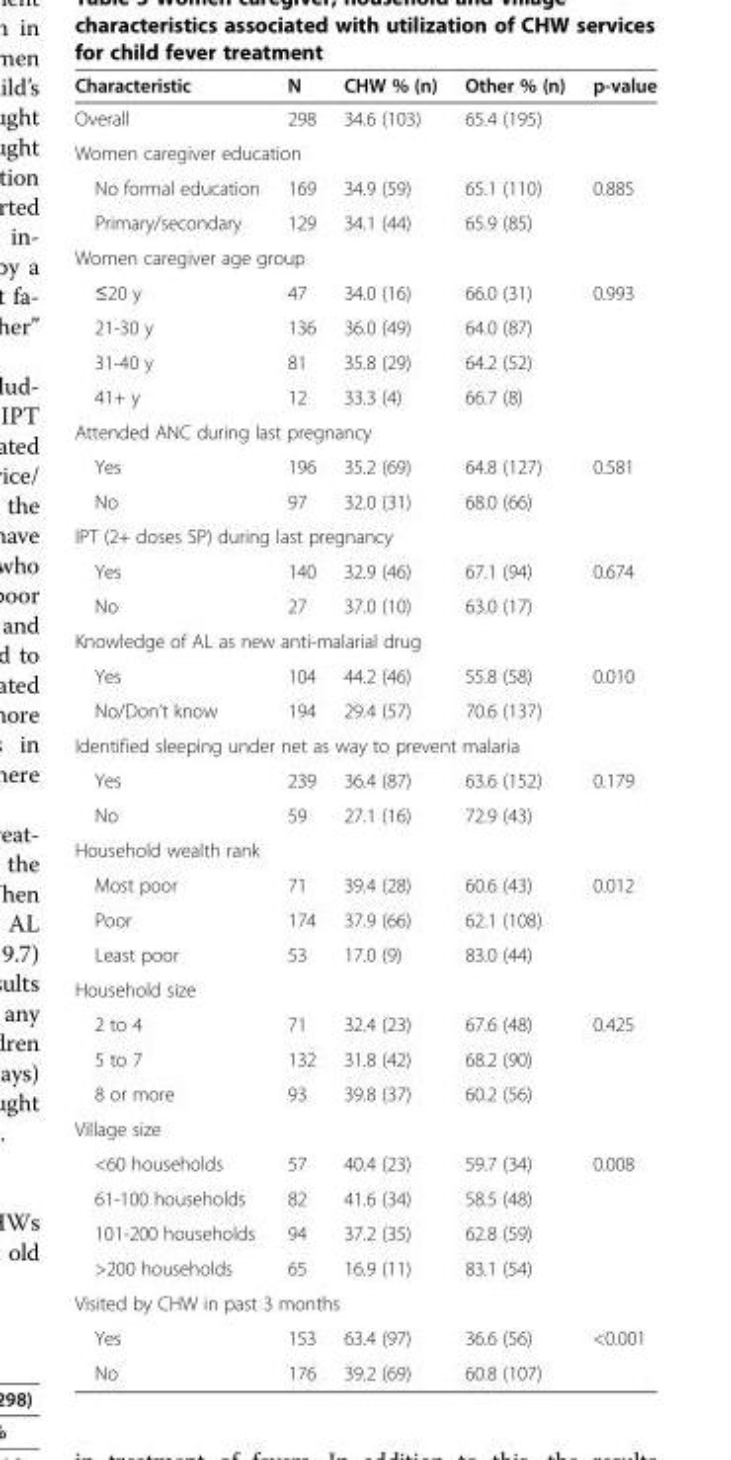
<table><thead><tr><td>Characteristic</td><td>N</td><td>CHW % (n)</td><td>Other % (n)</td><td>p-value</td></tr></thead><tbody><tr><td>Overall</td><td>298</td><td>34.6 (103)</td><td>65.4 (195)</td><td></td></tr><tr><td colspan="5">Women caregiver education</td></tr><tr><td>No formal education</td><td>169</td><td>34.9 (59)</td><td>65.1 (110)</td><td>0.885</td></tr><tr><td>Primary/secondary</td><td>129</td><td>34.1 (44)</td><td>65.9 (85)</td><td></td></tr><tr><td colspan="5">Women caregiver age group</td></tr><tr><td>≤20 y</td><td>47</td><td>34.0 (16)</td><td>66.0 (31)</td><td>0.993</td></tr><tr><td>21-30 y</td><td>136</td><td>36.0 (49)</td><td>64.0 (87)</td><td></td></tr><tr><td>31-40 y</td><td>81</td><td>35.8 (29)</td><td>64.2 (52)</td><td></td></tr><tr><td>41+ y</td><td>12</td><td>33.3 (4)</td><td>66.7 (8)</td><td></td></tr><tr><td colspan="5">Attended ANC during last pregnancy</td></tr><tr><td>Yes</td><td>196</td><td>35.2 (69)</td><td>64.8 (127)</td><td>0.581</td></tr><tr><td>No</td><td>97</td><td>32.0 (31)</td><td>68.0 (66)</td><td></td></tr><tr><td colspan="5">IPT (2+ doses SP) during last pregnancy</td></tr><tr><td>Yes</td><td>140</td><td>32.9 (46)</td><td>67.1 (94)</td><td>0.674</td></tr><tr><td>No</td><td>27</td><td>37.0 (10)</td><td>63.0 (17)</td><td></td></tr><tr><td colspan="5">Knowledge of AL as new anti-malarial drug</td></tr><tr><td>Yes</td><td>104</td><td>44.2 (46)</td><td>55.8 (58)</td><td>0.010</td></tr><tr><td>No/Don’t know</td><td>194</td><td>29.4 (57)</td><td>70.6 (137)</td><td></td></tr><tr><td colspan="5">Identified sleeping under net as way to prevent malaria</td></tr><tr><td>Yes</td><td>239</td><td>36.4 (87)</td><td>63.6 (152)</td><td>0.179</td></tr><tr><td>No</td><td>59</td><td>27.1 (16)</td><td>72.9 (43)</td><td></td></tr><tr><td colspan="5">Household wealth rank</td></tr><tr><td>Most poor</td><td>71</td><td>39.4 (28)</td><td>60.6 (43)</td><td>0.012</td></tr><tr><td>Poor</td><td>174</td><td>37.9 (66)</td><td>62.1 (108)</td><td></td></tr><tr><td>Least poor</td><td>53</td><td>17.0 (9)</td><td>83.0 (44)</td><td></td></tr><tr><td colspan="5">Household size</td></tr><tr><td>2 to 4</td><td>71</td><td>32.4 (23)</td><td>67.6 (48)</td><td>0.425</td></tr><tr><td>5 to 7</td><td>132</td><td>31.8 (42)</td><td>68.2 (90)</td><td></td></tr><tr><td>8 or more</td><td>93</td><td>39.8 (37)</td><td>60.2 (56)</td><td></td></tr><tr><td colspan="5">Village size</td></tr><tr><td>&lt;60 households</td><td>57</td><td>40.4 (23)</td><td>59.7 (34)</td><td>0.008</td></tr><tr><td>61-100 households</td><td>82</td><td>41.6 (34)</td><td>58.5 (48)</td><td></td></tr><tr><td>101-200 households</td><td>94</td><td>37.2 (35)</td><td>62.8 (59)</td><td></td></tr><tr><td>&gt;200 households</td><td>65</td><td>16.9 (11)</td><td>83.1 (54)</td><td></td></tr><tr><td colspan="5">Visited by CHW in past 3 months</td></tr><tr><td>Yes</td><td>153</td><td>63.4 (97)</td><td>36.6 (56)</td><td>&lt;0.001</td></tr><tr><td>No</td><td>176</td><td>39.2 (69)</td><td>60.8 (107)</td><td></td></tr></tbody></table>